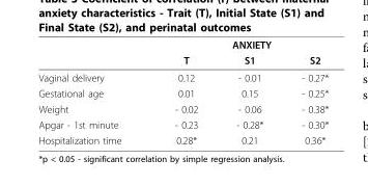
<table><thead><tr><td rowspan="2"></td><td colspan="3">ANXIETY</td></tr><tr><td>T</td><td>S1</td><td>S2</td></tr></thead><tbody><tr><td>Vaginal delivery</td><td>0.12</td><td>- 0.01</td><td>- 0.27*</td></tr><tr><td>Gestational age</td><td>0.01</td><td>0.15</td><td>- 0.25*</td></tr><tr><td>Weight</td><td>- 0.02</td><td>- 0.06</td><td>- 0.38*</td></tr><tr><td>Apgar - 1st minute</td><td>- 0.23</td><td>- 0.28*</td><td>- 0.30*</td></tr><tr><td>Hospitalization time</td><td>0.28*</td><td>0.21</td><td>0.36*</td></tr></tbody></table>